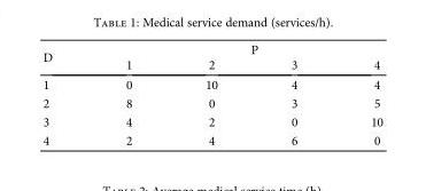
<table><thead><tr><td rowspan="2">D</td><td colspan="4">P</td></tr><tr><td>1</td><td>2</td><td>3</td><td>4</td></tr></thead><tbody><tr><td>1</td><td>0</td><td>10</td><td>4</td><td>4</td></tr><tr><td>2</td><td>8</td><td>0</td><td>3</td><td>5</td></tr><tr><td>3</td><td>4</td><td>2</td><td>0</td><td>10</td></tr><tr><td>4</td><td>2</td><td>4</td><td>6</td><td>0</td></tr></tbody></table>